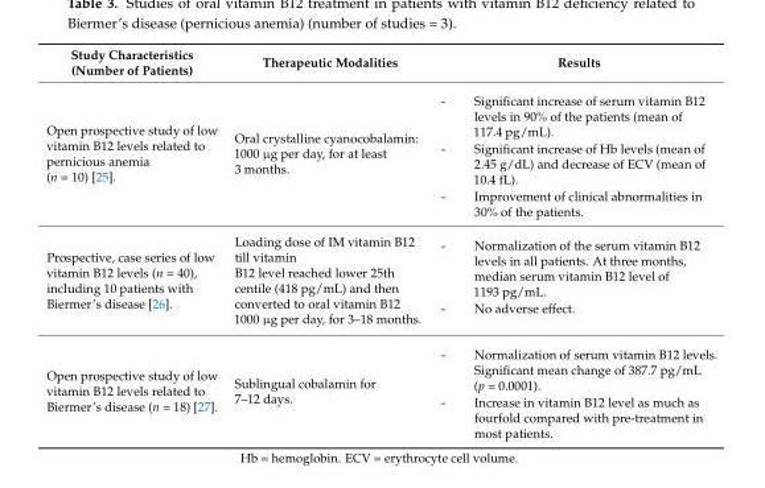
<table><thead><tr><td>Study Characteristics (Number of Patients)</td><td>Therapeutic Modalities</td><td>Results</td></tr></thead><tbody><tr><td>Open prospective study of low vitamin B12 levels related to pernicious anemia (n = 10) [25].</td><td>Oral crystalline cyanocobalamin: 1000 µg per day, for at least 3 months.</td><td>- Significant increase of serum vitamin B12 levels in 90% of the patients (mean of 117.4 pg/mL). - Significant increase of Hb levels (mean of 2.45 g/dL) and decrease of ECV (mean of 10.4 fL). - Improvement of clinical abnormalities in 30% of the patients.</td></tr><tr><td>Prospective, case series of low vitamin B12 levels (n = 40), including 10 patients with Biermer’s disease [26].</td><td>Loading dose of IM vitamin B12 till vitamin B12 level reached lower 25th centile (418 pg/mL) and then converted to oral vitamin B12 1000 µg per day, for 3–18 months.</td><td>- Normalization of the serum vitamin B12 levels in all patients. At three months, median serum vitamin B12 level of 1193 pg/mL. - No adverse effect.</td></tr><tr><td>Open prospective study of low vitamin B12 levels related to Biermer’s disease (n = 18) [27].</td><td>Sublingual cobalamin for 7–12 days.</td><td>- Normalization of serum vitamin B12 levels. Significant mean change of 387.7 pg/mL (p = 0.0001). - Increase in vitamin B12 level as much as fourfold compared with pre-treatment in most patients.</td></tr></tbody></table>